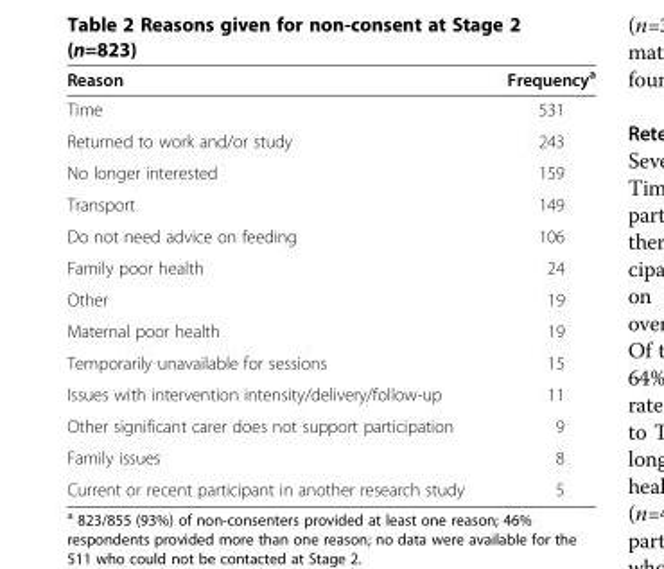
<table><thead><tr><td>Reason</td><td>Frequency<sup>a</sup></td></tr></thead><tbody><tr><td>Time</td><td>531</td></tr><tr><td>Returned to work and/or study</td><td>243</td></tr><tr><td>No longer interested</td><td>159</td></tr><tr><td>Transport</td><td>149</td></tr><tr><td>Do not need advice on feeding</td><td>106</td></tr><tr><td>Family poor health</td><td>24</td></tr><tr><td>Other</td><td>19</td></tr><tr><td>Maternal poor health</td><td>19</td></tr><tr><td>Temporarily unavailable for sessions</td><td>15</td></tr><tr><td>Issues with intervention intensity/delivery/follow-up</td><td>11</td></tr><tr><td>Other significant carer does not support participation</td><td>9</td></tr><tr><td>Family issues</td><td>8</td></tr><tr><td>Current or recent participant in another research study</td><td>5</td></tr></tbody></table>